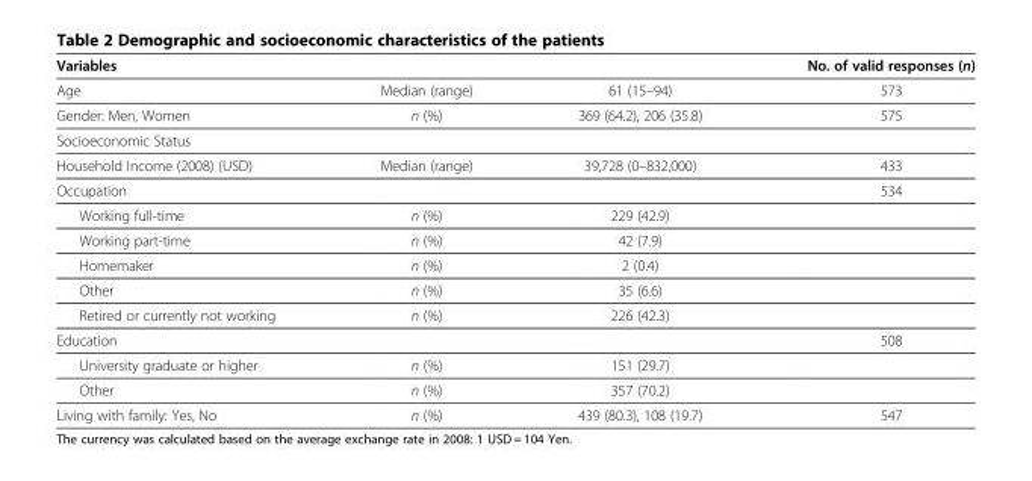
<table><thead><tr><td>Variables</td><td></td><td></td><td>No. of valid responses (n)</td></tr></thead><tbody><tr><td>Age</td><td>Median (range)</td><td>61 (15–94)</td><td>573</td></tr><tr><td>Gender: Men, Women</td><td>n (%)</td><td>369 (64.2), 206 (35.8)</td><td>575</td></tr><tr><td colspan="4">Socioeconomic Status</td></tr><tr><td>Household Income (2008) (USD)</td><td>Median (range)</td><td>39,728 (0–832,000)</td><td>433</td></tr><tr><td>Occupation</td><td></td><td></td><td>534</td></tr><tr><td>Working full-time</td><td>n (%)</td><td>229 (42.9)</td><td></td></tr><tr><td>Working part-time</td><td>n (%)</td><td>42 (7.9)</td><td></td></tr><tr><td>Homemaker</td><td>n (%)</td><td>2 (0.4)</td><td></td></tr><tr><td>Other</td><td>n (%)</td><td>35 (6.6)</td><td></td></tr><tr><td>Retired or currently not working</td><td>n (%)</td><td>226 (42.3)</td><td></td></tr><tr><td>Education</td><td></td><td></td><td>508</td></tr><tr><td>University graduate or higher</td><td>n (%)</td><td>151 (29.7)</td><td></td></tr><tr><td>Other</td><td>n (%)</td><td>357 (70.2)</td><td></td></tr><tr><td>Living with family: Yes, No</td><td>n (%)</td><td>439 (80.3), 108 (19.7)</td><td>547</td></tr></tbody></table>